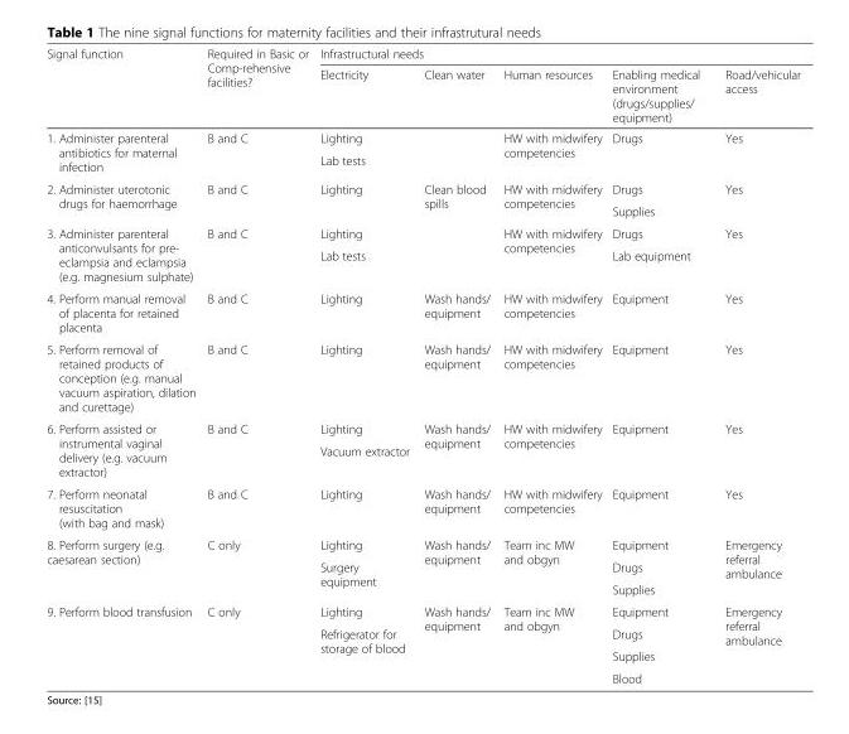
<table><thead><tr><td rowspan="2">Signal function</td><td rowspan="2">Required in Basic or Comp-rehensive facilities?</td><td colspan="5">Infrastructural needs</td></tr><tr><td>Electricity</td><td>Clean water</td><td>Human resources</td><td>Enabling medical environment (drugs/supplies/ equipment)</td><td>Road/vehicular access</td></tr></thead><tbody><tr><td rowspan="2">1. Administer parenteral antibiotics for maternal infection</td><td rowspan="2">B and C</td><td>Lighting</td><td rowspan="2"></td><td rowspan="2">HW with midwifery competencies</td><td rowspan="2">Drugs</td><td rowspan="2">Yes</td></tr><tr><td>Lab tests</td></tr><tr><td rowspan="2">2. Administer uterotonic drugs for haemorrhage</td><td rowspan="2">B and C</td><td rowspan="2">Lighting</td><td rowspan="2">Clean blood spills</td><td rowspan="2">HW with midwifery competencies</td><td>Drugs</td><td rowspan="2">Yes</td></tr><tr><td>Supplies</td></tr><tr><td rowspan="2">3. Administer parenteral anticonvulsants for pre- eclampsia and eclampsia (e.g. magnesium sulphate)</td><td rowspan="2">B and C</td><td>Lighting</td><td rowspan="2"></td><td rowspan="2">HW with midwifery competencies</td><td>Drugs</td><td rowspan="2">Yes</td></tr><tr><td>Lab tests</td><td>Lab equipment</td></tr><tr><td>4. Perform manual removal of placenta for retained placenta</td><td>B and C</td><td>Lighting</td><td>Wash hands/ equipment</td><td>HW with midwifery competencies</td><td>Equipment</td><td>Yes</td></tr><tr><td>5. Perform removal of retained products of conception (e.g. manual vacuum aspiration, dilation and curettage)</td><td>B and C</td><td>Lighting</td><td>Wash hands/ equipment</td><td>HW with midwifery competencies</td><td>Equipment</td><td>Yes</td></tr><tr><td rowspan="2">6. Perform assisted or instrumental vaginal delivery (e.g. vacuum extractor)</td><td rowspan="2">B and C</td><td>Lighting</td><td rowspan="2">Wash hands/ equipment</td><td rowspan="2">HW with midwifery competencies</td><td rowspan="2">Equipment</td><td rowspan="2">Yes</td></tr><tr><td>Vacuum extractor</td></tr><tr><td>7. Perform neonatal resuscitation (with bag and mask)</td><td>B and C</td><td>Lighting</td><td>Wash hands/ equipment</td><td>HW with midwifery competencies</td><td>Equipment</td><td>Yes</td></tr><tr><td rowspan="3">8. Perform surgery (e.g. caesarean section)</td><td rowspan="3">C only</td><td>Lighting</td><td rowspan="3">Wash hands/ equipment</td><td rowspan="3">Team inc MW and obgyn</td><td>Equipment</td><td rowspan="3">Emergency referral ambulance</td></tr><tr><td rowspan="2">Surgery equipment</td><td>Drugs</td></tr><tr><td>Supplies</td></tr><tr><td rowspan="4">9. Perform blood transfusion</td><td rowspan="4">C only</td><td>Lighting</td><td rowspan="4">Wash hands/ equipment</td><td rowspan="4">Team inc MW and obgyn</td><td>Equipment</td><td rowspan="4">Emergency referral ambulance</td></tr><tr><td rowspan="3">Refrigerator for storage of blood</td><td>Drugs</td></tr><tr><td>Supplies</td></tr><tr><td>Blood</td></tr></tbody></table>